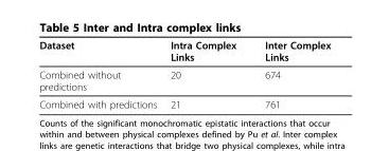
<table><thead><tr><td>Dataset</td><td>Intra Complex Links</td><td>Inter Complex Links</td></tr></thead><tbody><tr><td>Combined without predictions</td><td>20</td><td>674</td></tr><tr><td>Combined with predictions</td><td>21</td><td>761</td></tr></tbody></table>